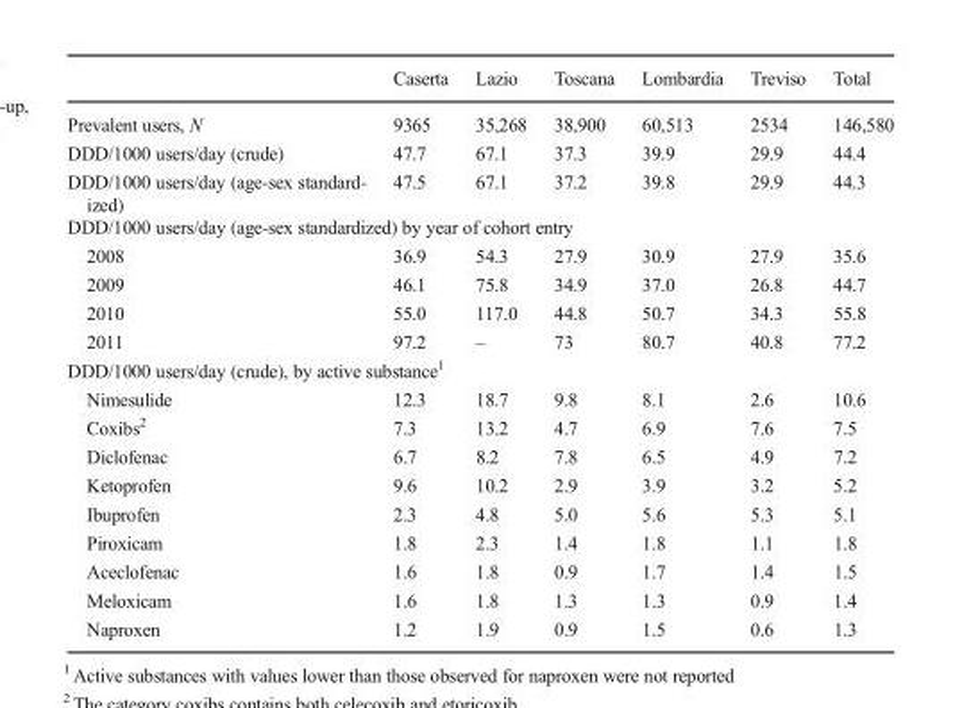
<table><thead><tr><td></td><td>Caserta</td><td>Lazio</td><td>Toscana</td><td>Lombardia</td><td>Treviso</td><td>Total</td></tr></thead><tbody><tr><td>Prevalent users, N</td><td>9365</td><td>35,268</td><td>38,900</td><td>60,513</td><td>2534</td><td>146,580</td></tr><tr><td>DDD/1000 users/day (crude)</td><td>47.7</td><td>67.1</td><td>37.3</td><td>39.9</td><td>29.9</td><td>44.4</td></tr><tr><td>DDD/1000 users/day (age-sex standard- ized)</td><td>47.5</td><td>67.1</td><td>37.2</td><td>39.8</td><td>29.9</td><td>44.3</td></tr><tr><td colspan="7">DDD/1000 users/day (age-sex standardized) by year of cohort entry</td></tr><tr><td>2008</td><td>36.9</td><td>54.3</td><td>27.9</td><td>30.9</td><td>27.9</td><td>35.6</td></tr><tr><td>2009</td><td>46.1</td><td>75.8</td><td>34.9</td><td>37.0</td><td>26.8</td><td>44.7</td></tr><tr><td>2010</td><td>55.0</td><td>117.0</td><td>44.8</td><td>50.7</td><td>34.3</td><td>55.8</td></tr><tr><td>2011</td><td>97.2</td><td>–</td><td>73</td><td>80.7</td><td>40.8</td><td>77.2</td></tr><tr><td colspan="7">DDD/1000 users/day (crude), by active substance<sup>1</sup></td></tr><tr><td>Nimesulide</td><td>12.3</td><td>18.7</td><td>9.8</td><td>8.1</td><td>2.6</td><td>10.6</td></tr><tr><td>Coxibs<sup>2</sup></td><td>7.3</td><td>13.2</td><td>4.7</td><td>6.9</td><td>7.6</td><td>7.5</td></tr><tr><td>Diclofenac</td><td>6.7</td><td>8.2</td><td>7.8</td><td>6.5</td><td>4.9</td><td>7.2</td></tr><tr><td>Ketoprofen</td><td>9.6</td><td>10.2</td><td>2.9</td><td>3.9</td><td>3.2</td><td>5.2</td></tr><tr><td>Ibuprofen</td><td>2.3</td><td>4.8</td><td>5.0</td><td>5.6</td><td>5.3</td><td>5.1</td></tr><tr><td>Piroxicam</td><td>1.8</td><td>2.3</td><td>1.4</td><td>1.8</td><td>1.1</td><td>1.8</td></tr><tr><td>Aceclofenac</td><td>1.6</td><td>1.8</td><td>0.9</td><td>1.7</td><td>1.4</td><td>1.5</td></tr><tr><td>Meloxicam</td><td>1.6</td><td>1.8</td><td>1.3</td><td>1.3</td><td>0.9</td><td>1.4</td></tr><tr><td>Naproxen</td><td>1.2</td><td>1.9</td><td>0.9</td><td>1.5</td><td>0.6</td><td>1.3</td></tr></tbody></table>